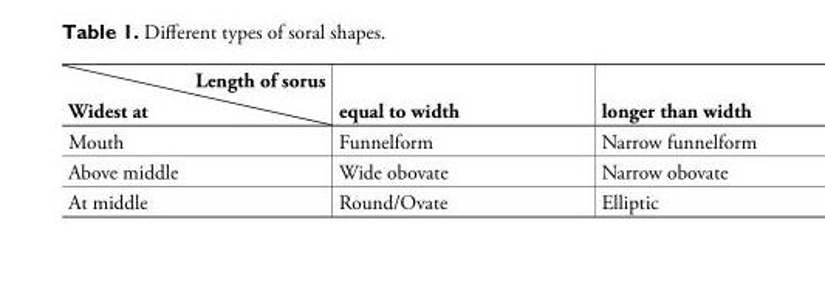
<table><thead><tr><td>Length of sorus Widest at</td><td>equal to width</td><td>longer than width</td></tr></thead><tbody><tr><td>Mouth</td><td>Funnelform</td><td>Narrow funnelform</td></tr><tr><td>Above middle</td><td>Wide obovate</td><td>Narrow obovate</td></tr><tr><td>At middle</td><td>Round/Ovate</td><td>Elliptic</td></tr></tbody></table>